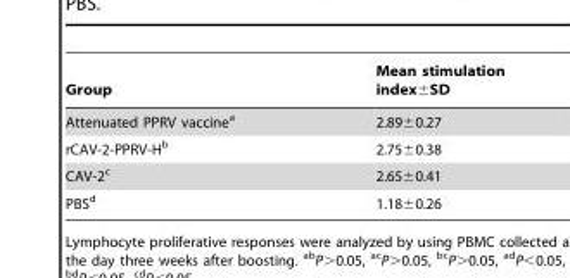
<table><thead><tr><td>Group</td><td>Mean stimulation index±SD</td></tr></thead><tbody><tr><td>Attenuated PPRV vaccine<sup>a</sup></td><td>2.89±0.27</td></tr><tr><td>rCAV-2-PPRV-H<sup>b</sup></td><td>2.75±0.38</td></tr><tr><td>CAV-2<sup>c</sup></td><td>2.65±0.41</td></tr><tr><td>PBS<sup>d</sup></td><td>1.18±0.26</td></tr></tbody></table>